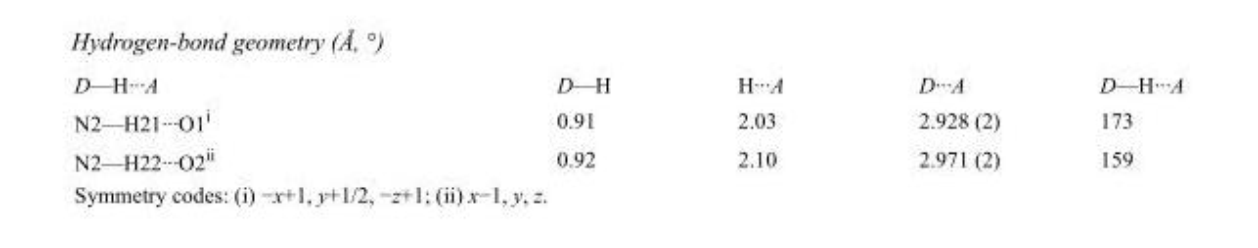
<table><tbody><tr><td>D—H···A</td><td>D—H</td><td>H···A</td><td>D···A</td><td>D—H···A</td></tr><tr><td>N2—H21···O1<sup>i</sup></td><td>0.91</td><td>2.03</td><td>2.928 (2)</td><td>173</td></tr><tr><td>N2—H22···O2<sup>ii</sup></td><td>0.92</td><td>2.10</td><td>2.971 (2)</td><td>159</td></tr></tbody></table>